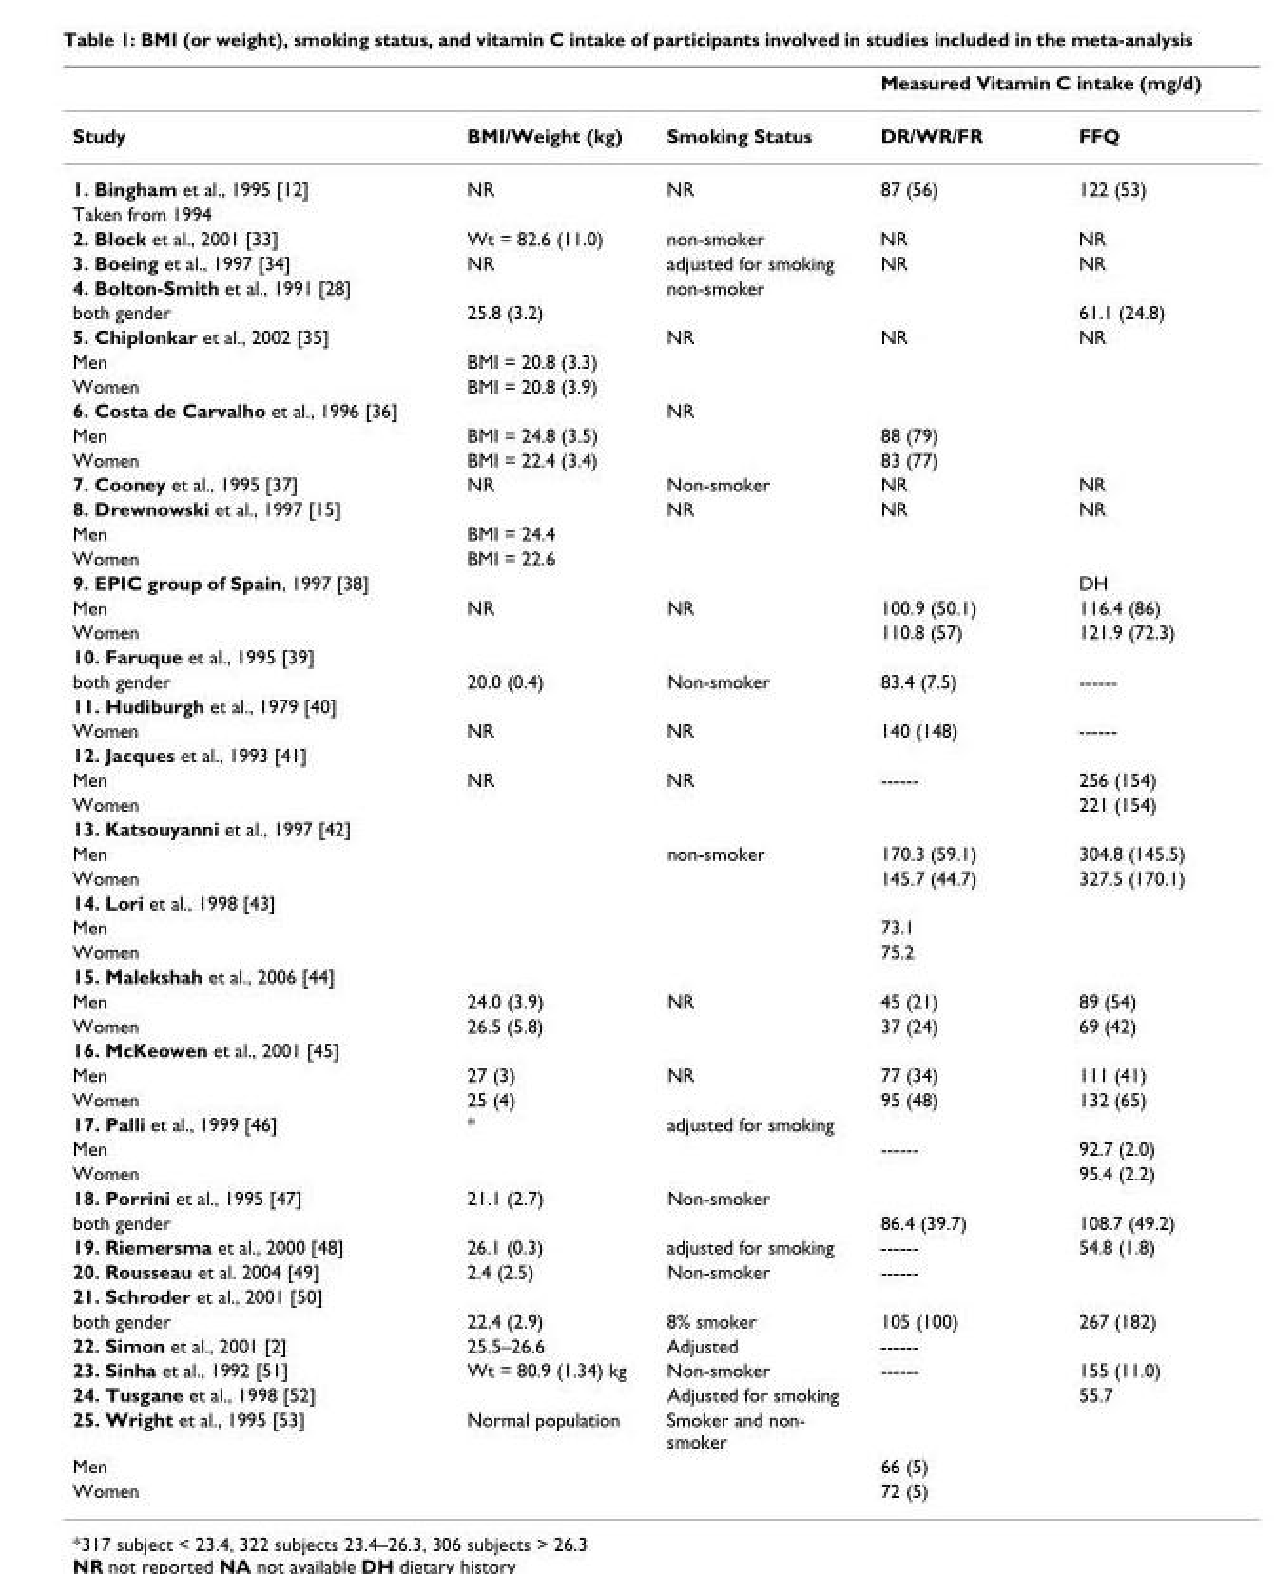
<table><thead><tr><td rowspan="2">Study</td><td rowspan="2">BMI/Weight (kg)</td><td rowspan="2">Smoking Status</td><td colspan="2">Measured Vitamin C intake (mg/d)</td></tr><tr><td>DR/WR/FR</td><td>FFQ</td></tr></thead><tbody><tr><td>1. Bingham et al., 1995 [12]</td><td>NR</td><td>NR</td><td>87 (56)</td><td>122 (53)</td></tr><tr><td colspan="5">Taken from 1994</td></tr><tr><td>2. Block et al., 2001 [33]</td><td>Wt = 82.6 (11.0)</td><td>non-smoker</td><td>NR</td><td>NR</td></tr><tr><td>3. Boeing et al., 1997 [34]</td><td>NR</td><td>adjusted for smoking</td><td>NR</td><td>NR</td></tr><tr><td>4. Bolton-Smith et al., 1991 [28]</td><td></td><td>non-smoker</td><td></td><td></td></tr><tr><td>both gender</td><td>25.8 (3.2)</td><td></td><td></td><td>61.1 (24.8)</td></tr><tr><td>5. Chiplonkar et al., 2002 [35]</td><td></td><td>NR</td><td>NR</td><td>NR</td></tr><tr><td>Men</td><td>BMI = 20.8 (3.3)</td><td></td><td></td><td></td></tr><tr><td>Women</td><td>BMI = 20.8 (3.9)</td><td></td><td></td><td></td></tr><tr><td>6. Costa de Carvalho et al., 1996 [36]</td><td></td><td>NR</td><td></td><td></td></tr><tr><td>Men</td><td>BMI = 24.8 (3.5)</td><td></td><td>88 (79)</td><td></td></tr><tr><td>Women</td><td>BMI = 22.4 (3.4)</td><td></td><td>83 (77)</td><td></td></tr><tr><td>7. Cooney et al., 1995 [37]</td><td>NR</td><td>Non-smoker</td><td>NR</td><td>NR</td></tr><tr><td>8. Drewnowski et al., 1997 [15]</td><td></td><td>NR</td><td>NR</td><td>NR</td></tr><tr><td>Men</td><td>BMI = 24.4</td><td></td><td></td><td></td></tr><tr><td>Women</td><td>BMI = 22.6</td><td></td><td></td><td></td></tr><tr><td>9. EPIC group of Spain, 1997 [38]</td><td></td><td></td><td></td><td>DH</td></tr><tr><td>Men</td><td>NR</td><td>NR</td><td>100.9 (50.1)</td><td>116.4 (86)</td></tr><tr><td>Women</td><td></td><td></td><td>110.8 (57)</td><td>121.9 (72.3)</td></tr><tr><td colspan="5">10. Faruque et al., 1995 [39]</td></tr><tr><td>both gender</td><td>20.0 (0.4)</td><td>Non-smoker</td><td>83.4 (7.5)</td><td>------</td></tr><tr><td colspan="5">11. Hudiburgh et al., 1979 [40]</td></tr><tr><td>Women</td><td>NR</td><td>NR</td><td>140 (148)</td><td>------</td></tr><tr><td colspan="5">12. Jacques et al., 1993 [41]</td></tr><tr><td>Men</td><td>NR</td><td>NR</td><td>------</td><td>256 (154)</td></tr><tr><td>Women</td><td></td><td></td><td></td><td>221 (154)</td></tr><tr><td colspan="5">13. Katsouyanni et al., 1997 [42]</td></tr><tr><td>Men</td><td></td><td>non-smoker</td><td>170.3 (59.1)</td><td>304.8 (145.5)</td></tr><tr><td>Women</td><td></td><td></td><td>145.7 (44.7)</td><td>327.5 (170.1)</td></tr><tr><td colspan="5">14. Lori et al., 1998 [43]</td></tr><tr><td>Men</td><td></td><td></td><td>73.1</td><td></td></tr><tr><td>Women</td><td></td><td></td><td>75.2</td><td></td></tr><tr><td colspan="5">15. Malekshah et al., 2006 [44]</td></tr><tr><td>Men</td><td>24.0 (3.9)</td><td>NR</td><td>45 (21)</td><td>89 (54)</td></tr><tr><td>Women</td><td>26.5 (5.8)</td><td></td><td>37 (24)</td><td>69 (42)</td></tr><tr><td colspan="5">16. McKeowen et al., 2001 [45]</td></tr><tr><td>Men</td><td>27 (3)</td><td>NR</td><td>77 (34)</td><td>111 (41)</td></tr><tr><td>Women</td><td>25 (4)</td><td></td><td>95 (48)</td><td>132 (65)</td></tr><tr><td>17. Palli et al., 1999 [46]</td><td>*</td><td>adjusted for smoking</td><td></td><td></td></tr><tr><td>Men</td><td></td><td></td><td>------</td><td>92.7 (2.0)</td></tr><tr><td>Women</td><td></td><td></td><td></td><td>95.4 (2.2)</td></tr><tr><td>18. Porrini et al., 1995 [47]</td><td>21.1 (2.7)</td><td>Non-smoker</td><td></td><td></td></tr><tr><td>both gender</td><td></td><td></td><td>86.4 (39.7)</td><td>108.7 (49.2)</td></tr><tr><td>19. Riemersma et al., 2000 [48]</td><td>26.1 (0.3)</td><td>adjusted for smoking</td><td>------</td><td>54.8 (1.8)</td></tr><tr><td>20. Rousseau et al. 2004 [49]</td><td>2.4 (2.5)</td><td>Non-smoker</td><td>------</td><td></td></tr><tr><td colspan="5">21. Schroder et al., 2001 [50]</td></tr><tr><td>both gender</td><td>22.4 (2.9)</td><td>8% smoker</td><td>105 (100)</td><td>267 (182)</td></tr><tr><td>22. Simon et al., 2001 [2]</td><td>25.5–26.6</td><td>Adjusted</td><td>------</td><td></td></tr><tr><td>23. Sinha et al., 1992 [51]</td><td>Wt = 80.9 (1.34) kg</td><td>Non-smoker</td><td>------</td><td>155 (11.0)</td></tr><tr><td>24. Tusgane et al., 1998 [52]</td><td></td><td>Adjusted for smoking</td><td></td><td>55.7</td></tr><tr><td>25. Wright et al., 1995 [53]</td><td>Normal population</td><td>Smoker and non- smoker</td><td></td><td></td></tr><tr><td>Men</td><td></td><td></td><td>66 (5)</td><td></td></tr><tr><td>Women</td><td></td><td></td><td>72 (5)</td><td></td></tr></tbody></table>